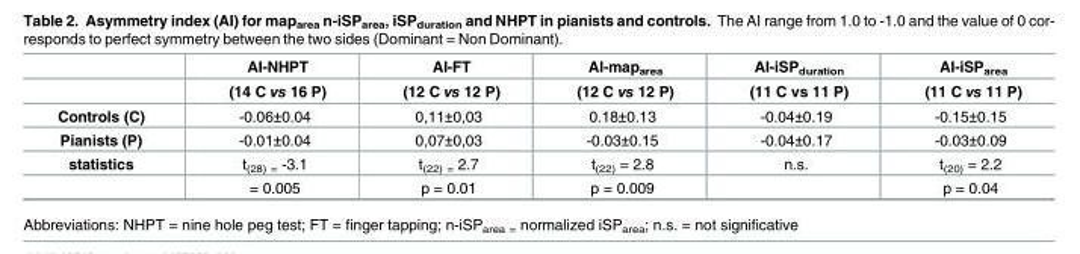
<table><thead><tr><td rowspan="2"></td><td rowspan="2">AI-NHPT (14 C vs 16 P)</td><td rowspan="2">AI-FT (12 C vs 12 P)</td><td rowspan="2">AI-map<sub>area</sub> (12 C vs 12 P)</td><td rowspan="2">AI-iSPduration (11 C vs 11 P)</td><td rowspan="2">AI-iSParea (11 C vs 11 P)</td></tr><tr></tr></thead><tbody><tr><td>Controls (C)</td><td>-0.06±0.04</td><td>0,11±0,03</td><td>0.18±0.13</td><td>-0.04±0.19</td><td>-0.15±0.15</td></tr><tr><td>Pianists (P)</td><td>-0.01±0.04</td><td>0,07±0,03</td><td>-0.03±0.15</td><td>-0.04±0.17</td><td>-0.03±0.09</td></tr><tr><td rowspan="2">statistics</td><td>t<sub>(28) =</sub> -3.1</td><td>t<sub>(22) =</sub> 2.7</td><td>t<sub>(22)</sub> = 2.8</td><td>n.s.</td><td>t<sub>(20)</sub> = 2.2</td></tr><tr><td>= 0.005</td><td>p = 0.01</td><td>p = 0.009</td><td></td><td>p = 0.04</td></tr></tbody></table>